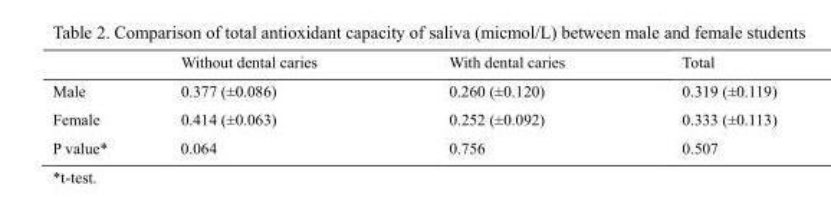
<table><thead><tr><td></td><td>Without dental caries</td><td>With dental caries</td><td>Total</td></tr></thead><tbody><tr><td>Male</td><td>0.377 (±0.086)</td><td>0.260 (±0.120)</td><td>0.319 (±0.119)</td></tr><tr><td>Female</td><td>0.414 (±0.063)</td><td>0.252 (±0.092)</td><td>0.333 (±0.113)</td></tr><tr><td>P value*</td><td>0.064</td><td>0.756</td><td>0.507</td></tr></tbody></table>